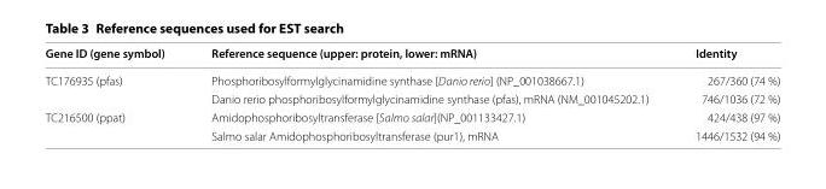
<table><thead><tr><td>Gene ID (gene symbol)</td><td>Reference sequence (upper: protein, lower: mRNA)</td><td>Identity</td></tr></thead><tbody><tr><td rowspan="2">TC176935 (pfas)</td><td>Phosphoribosylformylglycinamidine synthase [Danio rerio] (NP_001038667.1)</td><td>267/360 (74 %)</td></tr><tr><td>Danio rerio phosphoribosylformylglycinamidine synthase (pfas), mRNA (NM_001045202.1)</td><td>746/1036 (72 %)</td></tr><tr><td rowspan="2">TC216500 (ppat)</td><td>Amidophosphoribosyltransferase [Salmo salar](NP_001133427.1)</td><td>424/438 (97 %)</td></tr><tr><td>Salmo salar Amidophosphoribosyltransferase (pur1), mRNA</td><td>1446/1532 (94 %)</td></tr></tbody></table>